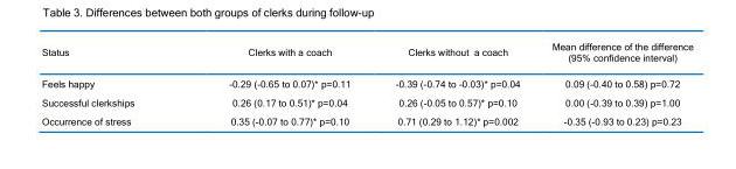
<table><thead><tr><td>Status</td><td>Clerks with a coach</td><td>Clerks without a coach</td><td>Mean difference of the difference (95% confidence interval)</td></tr></thead><tbody><tr><td>Feels happy</td><td>-0.29 (-0.65 to 0.07)* p=0.11</td><td>-0.39 (-0.74 to -0.03)* p=0.04</td><td>0.09 (-0.40 to 0.58) p=0.72</td></tr><tr><td>Successful clerkships</td><td>0.26 (0.17 to 0.51)* p=0.04</td><td>0.26 (-0.05 to 0.57)* p=0.10</td><td>0.00 (-0.39 to 0.39) p=1.00</td></tr><tr><td>Occurrence of stress</td><td>0.35 (-0.07 to 0.77)* p=0.10</td><td>0.71 (0.29 to 1.12)* p=0.002</td><td>-0.35 (-0.93 to 0.23) p=0.23</td></tr></tbody></table>